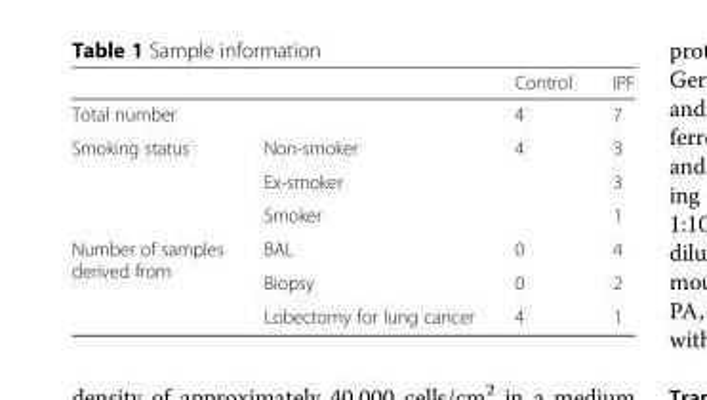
<table><thead><tr><td></td><td></td><td>Control</td><td>IPF</td></tr></thead><tbody><tr><td colspan="2">Total number</td><td>4</td><td>7</td></tr><tr><td rowspan="3">Smoking status</td><td>Non-smoker</td><td>4</td><td>3</td></tr><tr><td>Ex-smoker</td><td></td><td>3</td></tr><tr><td>Smoker</td><td></td><td>1</td></tr><tr><td rowspan="3">Number of samples derived from</td><td>BAL</td><td>0</td><td>4</td></tr><tr><td>Biopsy</td><td>0</td><td>2</td></tr><tr><td>Lobectomy for lung cancer</td><td>4</td><td>1</td></tr></tbody></table>